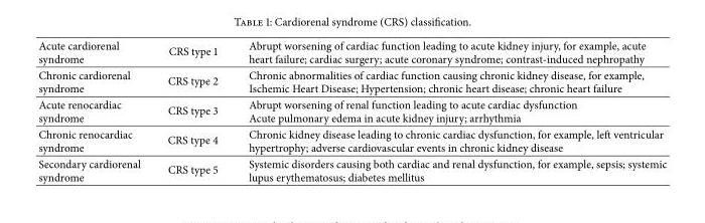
<table><tbody><tr><td>Acute cardiorenal syndrome</td><td>CRS type 1</td><td>Abrupt worsening of cardiac function leading to acute kidney injury, for example, acute heart failure; cardiac surgery; acute coronary syndrome; contrast-induced nephropathy</td></tr><tr><td>Chronic cardiorenal syndrome</td><td>CRS type 2</td><td>Chronic abnormalities of cardiac function causing chronic kidney disease, for example, Ischemic Heart Disease; Hypertension; chronic heart disease; chronic heart failure</td></tr><tr><td>Acute renocardiac syndrome</td><td>CRS type 3</td><td>Abrupt worsening of renal function leading to acute cardiac dysfunction Acute pulmonary edema in acute kidney injury; arrhythmia</td></tr><tr><td>Chronic renocardiac syndrome</td><td>CRS type 4</td><td>Chronic kidney disease leading to chronic cardiac dysfunction, for example, left ventricular hypertrophy; adverse cardiovascular events in chronic kidney disease</td></tr><tr><td>Secondary cardiorenal syndrome</td><td>CRS type 5</td><td>Systemic disorders causing both cardiac and renal dysfunction, for example, sepsis; systemic lupus erythematosus; diabetes mellitus</td></tr></tbody></table>